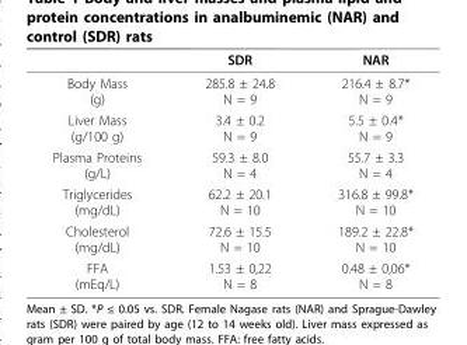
<table><thead><tr><td></td><td>SDR</td><td>NAR</td></tr></thead><tbody><tr><td>Body Mass (g)</td><td>285.8 ± 24.8 N = 9</td><td>216.4 ± 8.7* N = 9</td></tr><tr><td>Liver Mass (g/100 g)</td><td>3.4 ± 0.2 N = 9</td><td>5.5 ± 0.4* N = 9</td></tr><tr><td>Plasma Proteins (g/L)</td><td>59.3 ± 8.0 N = 4</td><td>55.7 ± 3.3 N = 4</td></tr><tr><td>Triglycerides (mg/dL)</td><td>62.2 ± 20.1 N = 10</td><td>316.8 ± 99.8* N = 10</td></tr><tr><td>Cholesterol (mg/dL)</td><td>72.6 ± 15.5 N = 10</td><td>189.2 ± 22.8* N = 10</td></tr><tr><td>FFA (mEq/L)</td><td>1.53 ± 0,22 N = 8</td><td>0.48 ± 0,06* N = 8</td></tr></tbody></table>